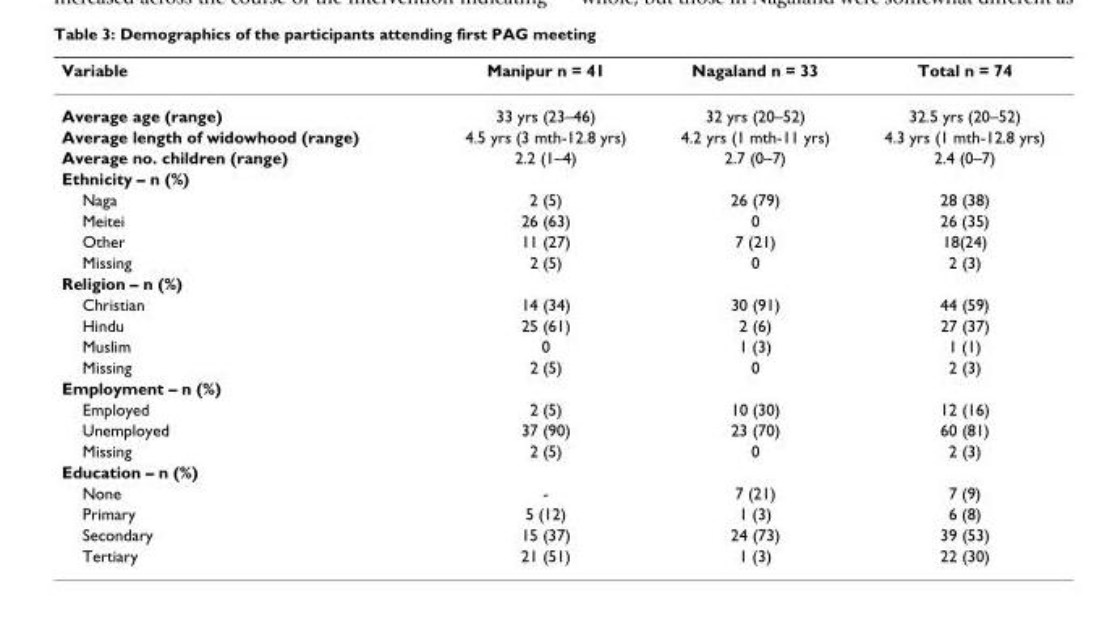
<table><thead><tr><td>Variable</td><td>Manipur n = 41</td><td>Nagaland n = 33</td><td>Total n = 74</td></tr></thead><tbody><tr><td>Average age (range)</td><td>33 yrs (23–46)</td><td>32 yrs (20–52)</td><td>32.5 yrs (20–52)</td></tr><tr><td>Average length of widowhood (range)</td><td>4.5 yrs (3 mth-12.8 yrs)</td><td>4.2 yrs (1 mth-11 yrs)</td><td>4.3 yrs (1 mth-12.8 yrs)</td></tr><tr><td>Average no. children (range)</td><td>2.2 (1–4)</td><td>2.7 (0–7)</td><td>2.4 (0–7)</td></tr><tr><td colspan="4">Ethnicity – n (%)</td></tr><tr><td>Naga</td><td>2 (5)</td><td>26 (79)</td><td>28 (38)</td></tr><tr><td>Meitei</td><td>26 (63)</td><td>0</td><td>26 (35)</td></tr><tr><td>Other</td><td>11 (27)</td><td>7 (21)</td><td>18(24)</td></tr><tr><td>Missing</td><td>2 (5)</td><td>0</td><td>2 (3)</td></tr><tr><td colspan="4">Religion – n (%)</td></tr><tr><td>Christian</td><td>14 (34)</td><td>30 (91)</td><td>44 (59)</td></tr><tr><td>Hindu</td><td>25 (61)</td><td>2 (6)</td><td>27 (37)</td></tr><tr><td>Muslim</td><td>0</td><td>1 (3)</td><td>1 (1)</td></tr><tr><td>Missing</td><td>2 (5)</td><td>0</td><td>2 (3)</td></tr><tr><td colspan="4">Employment – n (%)</td></tr><tr><td>Employed</td><td>2 (5)</td><td>10 (30)</td><td>12 (16)</td></tr><tr><td>Unemployed</td><td>37 (90)</td><td>23 (70)</td><td>60 (81)</td></tr><tr><td>Missing</td><td>2 (5)</td><td>0</td><td>2 (3)</td></tr><tr><td colspan="4">Education – n (%)</td></tr><tr><td>None</td><td>-</td><td>7 (21)</td><td>7 (9)</td></tr><tr><td>Primary</td><td>5 (12)</td><td>1 (3)</td><td>6 (8)</td></tr><tr><td>Secondary</td><td>15 (37)</td><td>24 (73)</td><td>39 (53)</td></tr><tr><td>Tertiary</td><td>21 (51)</td><td>1 (3)</td><td>22 (30)</td></tr></tbody></table>